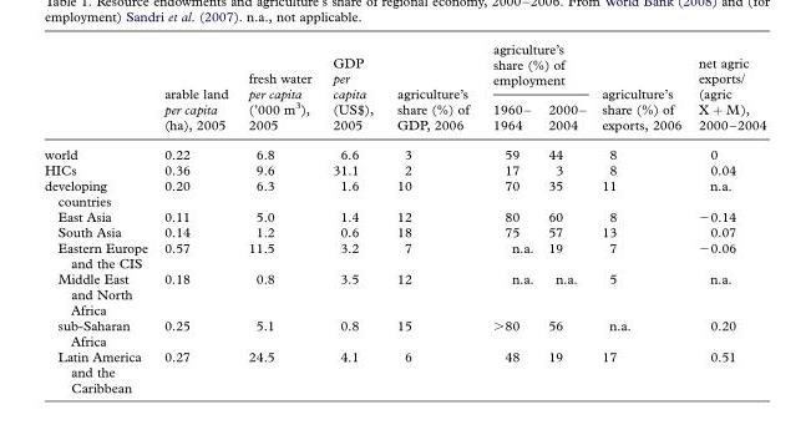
<table><thead><tr><td rowspan="2"></td><td rowspan="2">arable land per capita (ha), 2005</td><td rowspan="2">fresh water per capita (’000 m<sup>3</sup>), 2005</td><td rowspan="2">GDP per capita (US$), 2005</td><td rowspan="2">agriculture’s share (%) of GDP, 2006</td><td colspan="2">agriculture’s share (%) of employment</td><td rowspan="2">agriculture’s share (%) of exports, 2006</td><td rowspan="2">net agric exports/ (agric X + M), 2000–2004</td></tr><tr><td>1960– 1964</td><td>2000– 2004</td></tr></thead><tbody><tr><td>world</td><td>0.22</td><td>6.8</td><td>6.6</td><td>3</td><td>59</td><td>44</td><td>8</td><td>0</td></tr><tr><td>HICs</td><td>0.36</td><td>9.6</td><td>31.1</td><td>2</td><td>17</td><td>3</td><td>8</td><td>0.04</td></tr><tr><td>developing countries</td><td>0.20</td><td>6.3</td><td>1.6</td><td>10</td><td>70</td><td>35</td><td>11</td><td>n.a.</td></tr><tr><td>East Asia</td><td>0.11</td><td>5.0</td><td>1.4</td><td>12</td><td>80</td><td>60</td><td>8</td><td>−0.14</td></tr><tr><td>South Asia</td><td>0.14</td><td>1.2</td><td>0.6</td><td>18</td><td>75</td><td>57</td><td>13</td><td>0.07</td></tr><tr><td>Eastern Europe and the CIS</td><td>0.57</td><td>11.5</td><td>3.2</td><td>7</td><td>n.a.</td><td>19</td><td>7</td><td>−0.06</td></tr><tr><td>Middle East and North Africa</td><td>0.18</td><td>0.8</td><td>3.5</td><td>12</td><td>n.a.</td><td>n.a.</td><td>5</td><td>n.a.</td></tr><tr><td>sub-Saharan Africa</td><td>0.25</td><td>5.1</td><td>0.8</td><td>15</td><td>&gt;80</td><td>56</td><td>n.a.</td><td>0.20</td></tr><tr><td>Latin America and the Caribbean</td><td>0.27</td><td>24.5</td><td>4.1</td><td>6</td><td>48</td><td>19</td><td>17</td><td>0.51</td></tr></tbody></table>